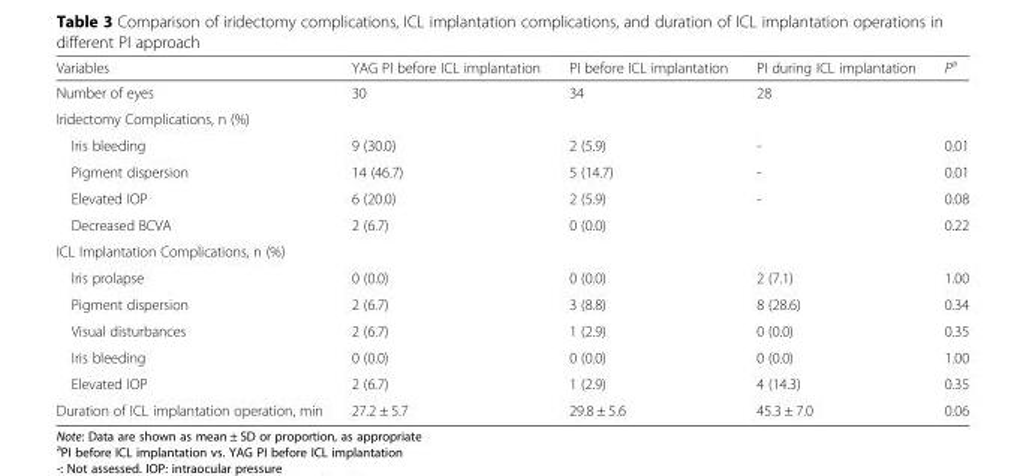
<table><thead><tr><td>Variables</td><td>YAG PI before ICL implantation</td><td>PI before ICL implantation</td><td>PI during ICL implantation</td><td>P<sup>a</sup></td></tr></thead><tbody><tr><td>Number of eyes</td><td>30</td><td>34</td><td>28</td><td></td></tr><tr><td colspan="5">Iridectomy Complications, n (%)</td></tr><tr><td>Iris bleeding</td><td>9 (30.0)</td><td>2 (5.9)</td><td>-</td><td>0.01</td></tr><tr><td>Pigment dispersion</td><td>14 (46.7)</td><td>5 (14.7)</td><td>-</td><td>0.01</td></tr><tr><td>Elevated IOP</td><td>6 (20.0)</td><td>2 (5.9)</td><td>-</td><td>0.08</td></tr><tr><td>Decreased BCVA</td><td>2 (6.7)</td><td>0 (0.0)</td><td></td><td>0.22</td></tr><tr><td colspan="5">ICL Implantation Complications, n (%)</td></tr><tr><td>Iris prolapse</td><td>0 (0.0)</td><td>0 (0.0)</td><td>2 (7.1)</td><td>1.00</td></tr><tr><td>Pigment dispersion</td><td>2 (6.7)</td><td>3 (8.8)</td><td>8 (28.6)</td><td>0.34</td></tr><tr><td>Visual disturbances</td><td>2 (6.7)</td><td>1 (2.9)</td><td>0 (0.0)</td><td>0.35</td></tr><tr><td>Iris bleeding</td><td>0 (0.0)</td><td>0 (0.0)</td><td>0 (0.0)</td><td>1.00</td></tr><tr><td>Elevated IOP</td><td>2 (6.7)</td><td>1 (2.9)</td><td>4 (14.3)</td><td>0.35</td></tr><tr><td>Duration of ICL implantation operation, min</td><td>27.2 ± 5.7</td><td>29.8 ± 5.6</td><td>45.3 ± 7.0</td><td>0.06</td></tr></tbody></table>